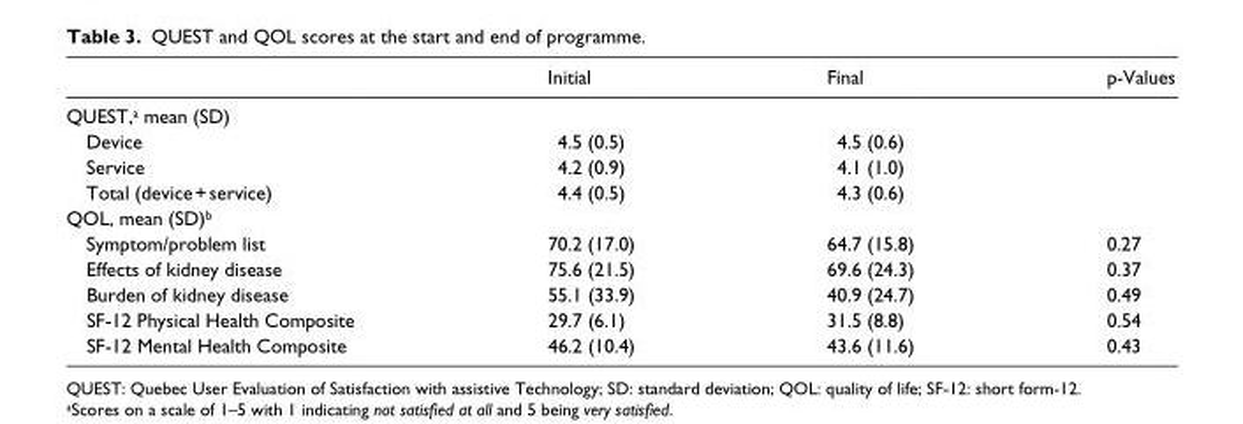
<table><thead><tr><td></td><td>Initial</td><td>Final</td><td>p-Values</td></tr></thead><tbody><tr><td colspan="4">QUEST,<sup>a</sup> mean (SD)</td></tr><tr><td>Device</td><td>4.5 (0.5)</td><td>4.5 (0.6)</td><td></td></tr><tr><td>Service</td><td>4.2 (0.9)</td><td>4.1 (1.0)</td><td></td></tr><tr><td>Total (device + service)</td><td>4.4 (0.5)</td><td>4.3 (0.6)</td><td></td></tr><tr><td colspan="4">QOL, mean (SD)<sup>b</sup></td></tr><tr><td>Symptom/problem list</td><td>70.2 (17.0)</td><td>64.7 (15.8)</td><td>0.27</td></tr><tr><td>Effects of kidney disease</td><td>75.6 (21.5)</td><td>69.6 (24.3)</td><td>0.37</td></tr><tr><td>Burden of kidney disease</td><td>55.1 (33.9)</td><td>40.9 (24.7)</td><td>0.49</td></tr><tr><td>SF-12 Physical Health Composite</td><td>29.7 (6.1)</td><td>31.5 (8.8)</td><td>0.54</td></tr><tr><td>SF-12 Mental Health Composite</td><td>46.2 (10.4)</td><td>43.6 (11.6)</td><td>0.43</td></tr></tbody></table>